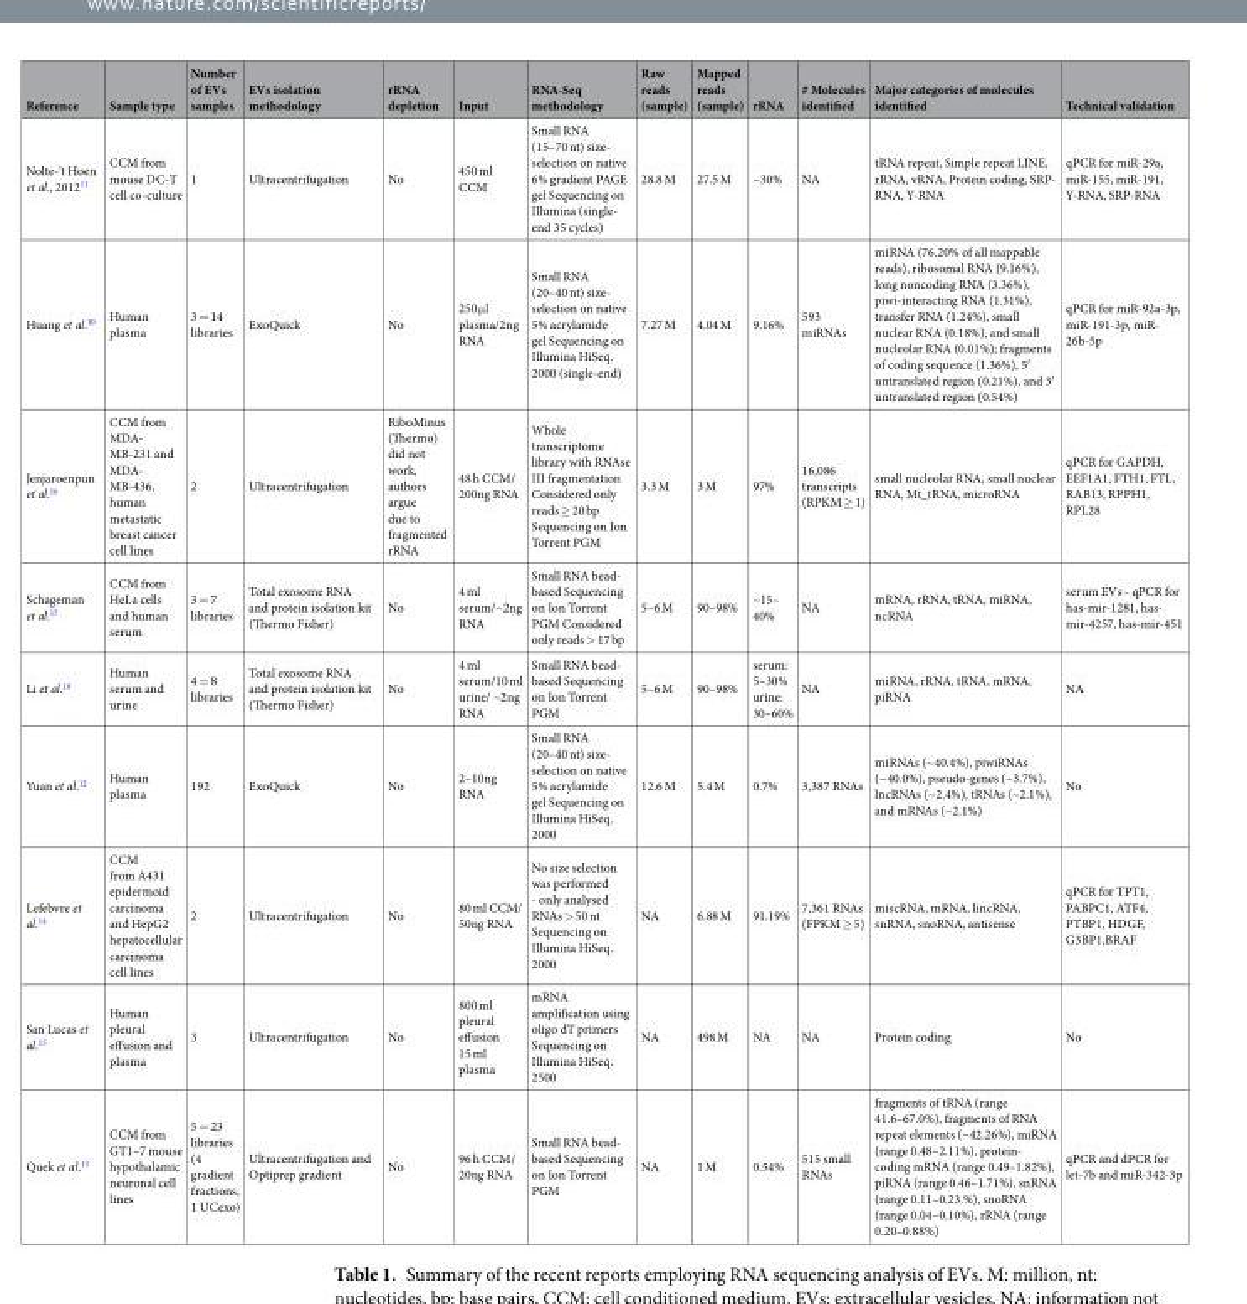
<table><thead><tr><td>Reference</td><td>Sample type</td><td>Number of EVs samples</td><td>EVs isolation methodology</td><td>rRNA depletion</td><td>Input</td><td>RNA-Seq methodology</td><td>Raw reads (sample)</td><td>Mapped reads (sample)</td><td>rRNA</td><td># Molecules identified</td><td>Major categories of molecules identified</td><td>Technical validation</td></tr></thead><tbody><tr><td>Nolte-’t Hoen et al., 2012<sup>11</sup></td><td>CCM from mouse DC-T cell co-culture</td><td>1</td><td>Ultracentrifugation</td><td>No</td><td>450 ml CCM</td><td>Small RNA (15–70 nt) size- selection on native 6% gradient PAGE gel Sequencing on Illumina (single- end 35 cycles)</td><td>28.8 M</td><td>27.5 M</td><td>~30%</td><td>NA</td><td>tRNA repeat, Simple repeat LINE, rRNA, vRNA, Protein coding, SRP- RNA, Y-RNA</td><td>qPCR for miR-29a, miR-155, miR-191, Y-RNA, SRP-RNA</td></tr><tr><td>Huang et al.<sup>10</sup></td><td>Human plasma</td><td>3 = 14 libraries</td><td>ExoQuick</td><td>No</td><td>250 μl plasma/2ng RNA</td><td>Small RNA (20–40 nt) size- selection on native 5% acrylamide gel Sequencing on Illumina HiSeq. 2000 (single-end)</td><td>7.27 M</td><td>4.04 M</td><td>9.16%</td><td>593 miRNAs</td><td>miRNA (76.20% of all mappable reads), ribosomal RNA (9.16%), long noncoding RNA (3.36%), piwi-interacting RNA (1.31%), transfer RNA (1.24%), small nuclear RNA (0.18%), and small nucleolar RNA (0.01%); fragments of coding sequence (1.36%), 5′ untranslated region (0.21%), and 3′ untranslated region (0.54%)</td><td>qPCR for miR-92a-3p, miR-191-3p, miR- 26b-5p</td></tr><tr><td>Jenjaroenpun et al.<sup>16</sup></td><td>CCM from MDA- MB-231 and MDA- MB-436, human metastatic breast cancer cell lines</td><td>2</td><td>Ultracentrifugation</td><td>RiboMinus (Thermo) did not work, authors argue due to fragmented rRNA</td><td>48 h CCM/ 200ng RNA</td><td>Whole transcriptome library with RNAse III fragmentation Considered only reads ≥ 20 bp Sequencing on Ion Torrent PGM</td><td>3.3 M</td><td>3 M</td><td>97%</td><td>16,086 transcripts (RPKM ≥ 1)</td><td>small nucleolar RNA, small nuclear RNA, Mt_tRNA, microRNA</td><td>qPCR for GAPDH, EEF1A1, FTH1, FTL, RAB13, RPPH1, RPL28</td></tr><tr><td>Schageman et al.<sup>17</sup></td><td>CCM from HeLa cells and human serum</td><td>3 = 7 libraries</td><td>Total exosome RNA and protein isolation kit (Thermo Fisher)</td><td>No</td><td>4 ml serum/~2ng RNA</td><td>Small RNA bead- based Sequencing on Ion Torrent PGM Considered only reads &gt; 17 bp</td><td>5–6 M</td><td>90–98%</td><td>~15– 40%</td><td>NA</td><td>mRNA, rRNA, tRNA, miRNA, ncRNA</td><td>serum EVs - qPCR for has-mir-1281, has- mir-4257, has-mir-451</td></tr><tr><td>Li et al.<sup>18</sup></td><td>Human serum and urine</td><td>4 = 8 libraries</td><td>Total exosome RNA and protein isolation kit (Thermo Fisher)</td><td>No</td><td>4 ml serum/10 ml urine/ ~2ng RNA</td><td>Small RNA bead- based Sequencing on Ion Torrent PGM</td><td>5–6 M</td><td>90–98%</td><td>serum: 5–30% urine: 30–60%</td><td>NA</td><td>miRNA, rRNA, tRNA, mRNA, piRNA</td><td>NA</td></tr><tr><td>Yuan et al.<sup>12</sup></td><td>Human plasma</td><td>192</td><td>ExoQuick</td><td>No</td><td>2–10ng RNA</td><td>Small RNA (20–40 nt) size- selection on native 5% acrylamide gel Sequencing on Illumina HiSeq. 2000</td><td>12.6 M</td><td>5.4 M</td><td>0.7%</td><td>3,387 RNAs</td><td>miRNAs (~40.4%), piwiRNAs (~40.0%), pseudo-genes (~3.7%), lncRNAs (~2.4%), tRNAs (~2.1%), and mRNAs (~2.1%)</td><td>No</td></tr><tr><td>Lefebvre et al.<sup>14</sup></td><td>CCM from A431 epidermoid carcinoma and HepG2 hepatocellular carcinoma cell lines</td><td>2</td><td>Ultracentrifugation</td><td>No</td><td>80 ml CCM/ 50ng RNA</td><td>No size selection was performed - only analysed RNAs &gt; 50 nt Sequencing on Illumina HiSeq. 2000</td><td>NA</td><td>6.88 M</td><td>91.19%</td><td>7,361 RNAs (FPKM ≥ 5)</td><td>miscRNA, mRNA, lincRNA, snRNA, snoRNA, antisense</td><td>qPCR for TPT1, PABPC1, ATF4, PTBP1, HDGF, G3BP1,BRAF</td></tr><tr><td>San Lucas et al.<sup>15</sup></td><td>Human pleural effusion and plasma</td><td>3</td><td>Ultracentrifugation</td><td>No</td><td>800 ml pleural effusion 15 ml plasma</td><td>mRNA amplification using oligo dT primers Sequencing on Illumina HiSeq. 2500</td><td>NA</td><td>498 M</td><td>NA</td><td>NA</td><td>Protein coding</td><td>No</td></tr><tr><td>Quek et al.<sup>13</sup></td><td>CCM from GT1–7 mouse hypothalamic neuronal cell lines</td><td>5 = 23 libraries (4 gradient fractions, 1 UCexo)</td><td>Ultracentrifugation and Optiprep gradient</td><td>No</td><td>96 h CCM/ 20ng RNA</td><td>Small RNA bead- based Sequencing on Ion Torrent PGM</td><td>NA</td><td>1 M</td><td>0.54%</td><td>515 small RNAs</td><td>fragments of tRNA (range 41.6–67.0%), fragments of RNA repeat elements (~42.26%), miRNA (range 0.48–2.11%), protein- coding mRNA (range 0.49–1.82%), piRNA (range 0.46–1.71%), snRNA (range 0.11–0.23.%), snoRNA (range 0.04–0.10%), rRNA (range 0.20–0.88%)</td><td>qPCR and dPCR for let-7b and miR-342-3p</td></tr></tbody></table>